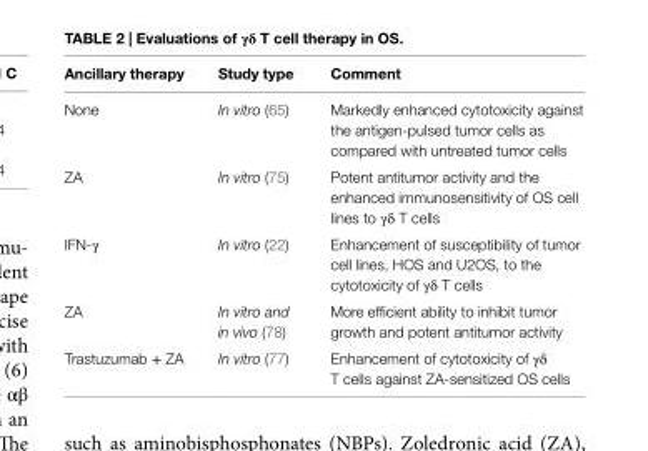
<table><thead><tr><td>Ancillary therapy</td><td>Study type</td><td>Comment</td></tr></thead><tbody><tr><td>None</td><td>In vitro (65)</td><td>Markedly enhanced cytotoxicity against the antigen-pulsed tumor cells as compared with untreated tumor cells</td></tr><tr><td>ZA</td><td>In vitro (75)</td><td>Potent antitumor activity and the enhanced immunosensitivity of OS cell lines to γδ T cells</td></tr><tr><td>IFN-γ</td><td>In vitro (22)</td><td>Enhancement of susceptibility of tumor cell lines, HOS and U2OS, to the cytotoxicity of γδ T cells</td></tr><tr><td>ZA</td><td>In vitro and in vivo (78)</td><td>More efficient ability to inhibit tumor growth and potent antitumor activity</td></tr><tr><td>Trastuzumab + ZA</td><td>In vitro (77)</td><td>Enhancement of cytotoxicity of γδ T cells against ZA-sensitized OS cells</td></tr></tbody></table>